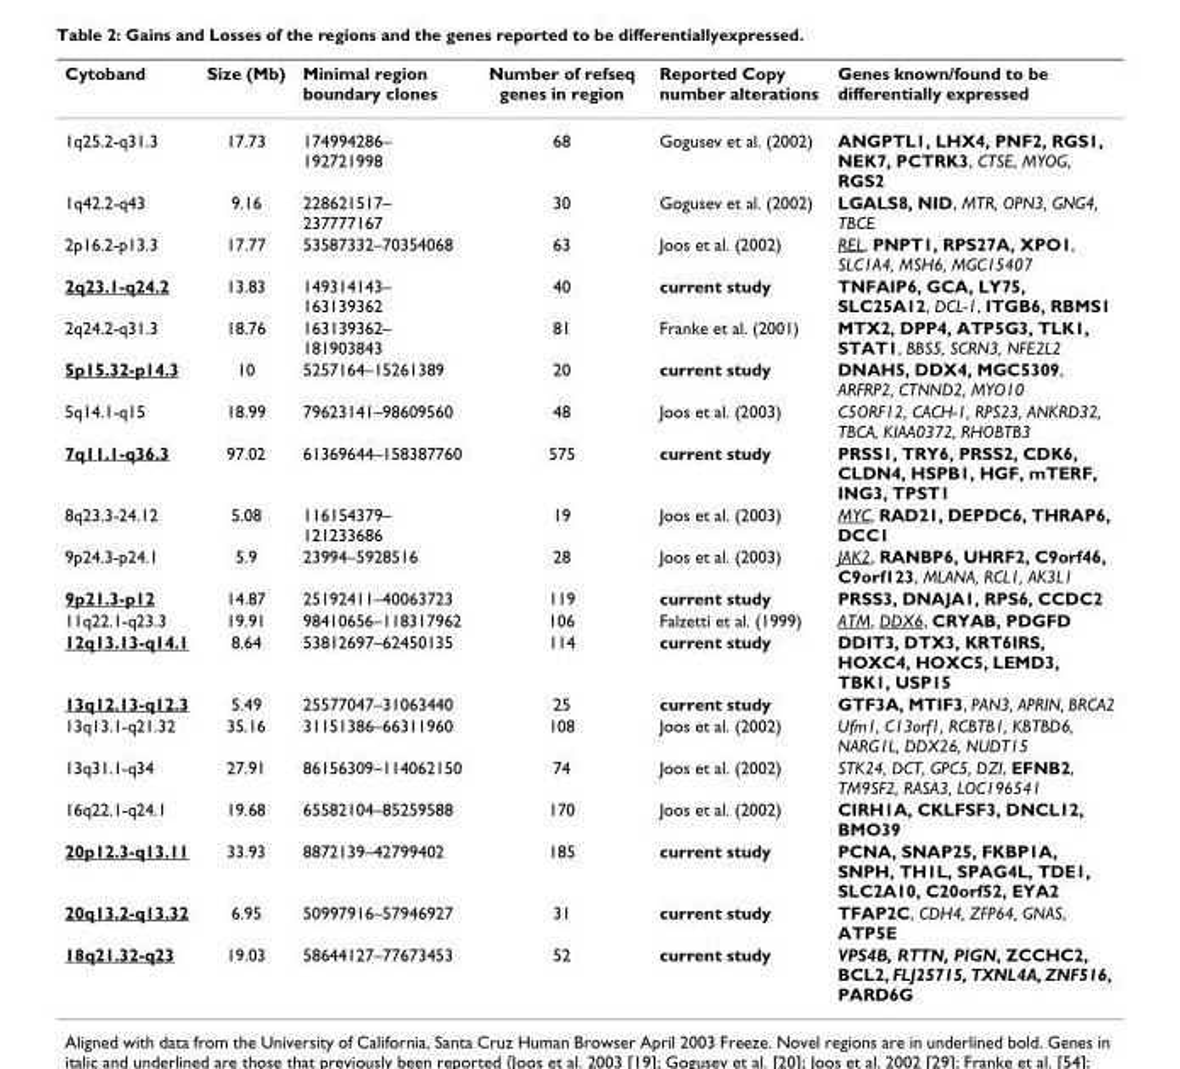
<table><thead><tr><td>Cytoband</td><td>Size (Mb)</td><td>Minimal region boundary clones</td><td>Number of refseq genes in region</td><td>Reported Copy number alterations</td><td>Genes known/found to be differentially expressed</td></tr></thead><tbody><tr><td>1q25.2-q31.3</td><td>17.73</td><td>174994286– 192721998</td><td>68</td><td>Gogusev et al. (2002)</td><td>ANGPTL1, LHX4, PNF2, RGS1, NEK7, PCTRK3, CTSE, MYOG, RGS2</td></tr><tr><td>1q42.2-q43</td><td>9.16</td><td>228621517– 237777167</td><td>30</td><td>Gogusev et al. (2002)</td><td>LGALS8, NID, MTR, OPN3, GNG4, TBCE</td></tr><tr><td>2p16.2-p13.3</td><td>17.77</td><td>53587332–70354068</td><td>63</td><td>Joos et al. (2002)</td><td>REL, PNPT1, RPS27A, XPO1, SLC1A4, MSH6, MGC15407</td></tr><tr><td>2q23.1-q24.2</td><td>13.83</td><td>149314143– 163139362</td><td>40</td><td>current study</td><td>TNFAIP6, GCA, LY75, SLC25A12, DCL-1, ITGB6, RBMS1</td></tr><tr><td>2q24.2-q31.3</td><td>18.76</td><td>163139362– 181903843</td><td>81</td><td>Franke et al. (2001)</td><td>MTX2, DPP4, ATP5G3, TLK1, STAT1, BBS5, SCRN3, NFE2L2</td></tr><tr><td>5p15.32-p14.3</td><td>10</td><td>5257164–15261389</td><td>20</td><td>current study</td><td>DNAH5, DDX4, MGC5309, ARFRP2, CTNND2, MYO10</td></tr><tr><td>5q14.1-q15</td><td>18.99</td><td>79623141–98609560</td><td>48</td><td>Joos et al. (2003)</td><td>C5ORF12, CACH-1, RPS23, ANKRD32, TBCA, KIAA0372, RHOBTB3</td></tr><tr><td>7q11.1-q36.3</td><td>97.02</td><td>61369644–158387760</td><td>575</td><td>current study</td><td>PRSS1, TRY6, PRSS2, CDK6, CLDN4, HSPB1, HGF, mTERF, ING3, TPST1</td></tr><tr><td>8q23.3-24.12</td><td>5.08</td><td>116154379– 121233686</td><td>19</td><td>Joos et al. (2003)</td><td>MYC, RAD21, DEPDC6, THRAP6, DCC1</td></tr><tr><td>9p24.3-p24.1</td><td>5.9</td><td>23994–5928516</td><td>28</td><td>Joos et al. (2003)</td><td>JAK2, RANBP6, UHRF2, C9orf46, C9orf123, MLANA, RCL1, AK3L1</td></tr><tr><td>9p21.3-p12</td><td>14.87</td><td>25192411–40063723</td><td>119</td><td>current study</td><td>PRSS3, DNAJA1, RPS6, CCDC2</td></tr><tr><td>11q22.1-q23.3</td><td>19.91</td><td>98410656–118317962</td><td>106</td><td>Falzetti et al. (1999)</td><td>ATM, DDX6, CRYAB, PDGFD</td></tr><tr><td>12q13.13-q14.1</td><td>8.64</td><td>53812697–62450135</td><td>114</td><td>current study</td><td>DDIT3, DTX3, KRT6IRS, HOXC4, HOXC5, LEMD3, TBK1, USP15</td></tr><tr><td>13q12.13-q12.3</td><td>5.49</td><td>25577047–31063440</td><td>25</td><td>current study</td><td>GTF3A, MTIF3, PAN3, APRIN, BRCA2</td></tr><tr><td>13q13.1-q21.32</td><td>35.16</td><td>31151386–66311960</td><td>108</td><td>Joos et al. (2002)</td><td>Ufm1, C13orf1, RCBTB1, KBTBD6, NARG1L, DDX26, NUDT15</td></tr><tr><td>13q31.1-q34</td><td>27.91</td><td>86156309–114062150</td><td>74</td><td>Joos et al. (2002)</td><td>STK24, DCT, GPC5, DZI, EFNB2, TM9SF2, RASA3, LOC196541</td></tr><tr><td>16q22.1-q24.1</td><td>19.68</td><td>65582104–85259588</td><td>170</td><td>Joos et al. (2002)</td><td>CIRH1A, CKLFSF3, DNCL12, BMO39</td></tr><tr><td>20p12.3-q13.11</td><td>33.93</td><td>8872139–42799402</td><td>185</td><td>current study</td><td>PCNA, SNAP25, FKBP1A, SNPH, TH1L, SPAG4L, TDE1, SLC2A10, C20orf52, EYA2</td></tr><tr><td>20q13.2-q13.32</td><td>6.95</td><td>50997916–57946927</td><td>31</td><td>current study</td><td>TFAP2C, CDH4, ZFP64, GNAS, ATP5E</td></tr><tr><td>18q21.32-q23</td><td>19.03</td><td>58644127–77673453</td><td>52</td><td>current study</td><td>VPS4B, RTTN, PIGN, ZCCHC2, BCL2, FLJ25715, TXNL4A, ZNF516, PARD6G</td></tr></tbody></table>